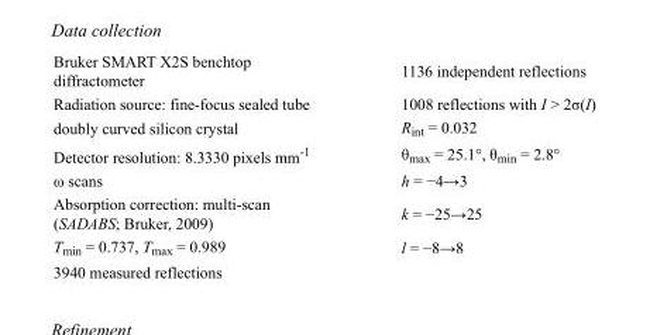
<table><tbody><tr><td>Bruker SMART X2S benchtop diffractometer</td><td>1136 independent reflections</td></tr><tr><td>Radiation source: fine-focus sealed tube</td><td>1008 reflections with I &gt; 2σ(I)</td></tr><tr><td>doubly curved silicon crystal</td><td>R<sub>int</sub> = 0.032</td></tr><tr><td>Detector resolution: 8.3330 pixels mm<sup>-1</sup></td><td>θ<sub>max</sub> = 25.1°, θ<sub>min</sub> = 2.8°</td></tr><tr><td>ω scans</td><td>h = −4→3</td></tr><tr><td>Absorption correction: multi-scan (SADABS; Bruker, 2009)</td><td>k = −25→25</td></tr><tr><td>T<sub>min</sub> = 0.737, T<sub>max</sub> = 0.989</td><td>l = −8→8</td></tr><tr><td>3940 measured reflections</td><td></td></tr></tbody></table>